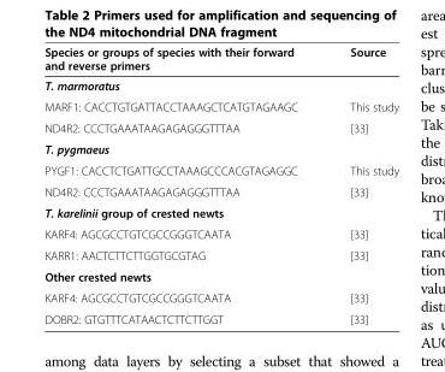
<table><thead><tr><td>Species or groups of species with their forward and reverse primers</td><td>Source</td></tr></thead><tbody><tr><td colspan="2">T. marmoratus</td></tr><tr><td>MARF1: CACCTGTGATTACCTAAAGCTCATGTAGAAGC</td><td>This study</td></tr><tr><td>ND4R2: CCCTGAAATAAGAGAGGGTTTAA</td><td>[33]</td></tr><tr><td colspan="2">T. pygmaeus</td></tr><tr><td>PYGF1: CACCTCTGATTGCCTAAAGCCCACGTAGAGGC</td><td>This study</td></tr><tr><td>ND4R2: CCCTGAAATAAGAGAGGGTTTAA</td><td>[33]</td></tr><tr><td colspan="2">T. karelinii group of crested newts</td></tr><tr><td>KARF4: AGCGCCTGTCGCCGGGTCAATA</td><td>[33]</td></tr><tr><td>KARR1: AACTCTTCTTGGTGCGTAG</td><td>[33]</td></tr><tr><td colspan="2">Other crested newts</td></tr><tr><td>KARF4: AGCGCCTGTCGCCGGGTCAATA</td><td>[33]</td></tr><tr><td>DOBR2: GTGTTTCATAACTCTTCTTGGT</td><td>[33]</td></tr></tbody></table>